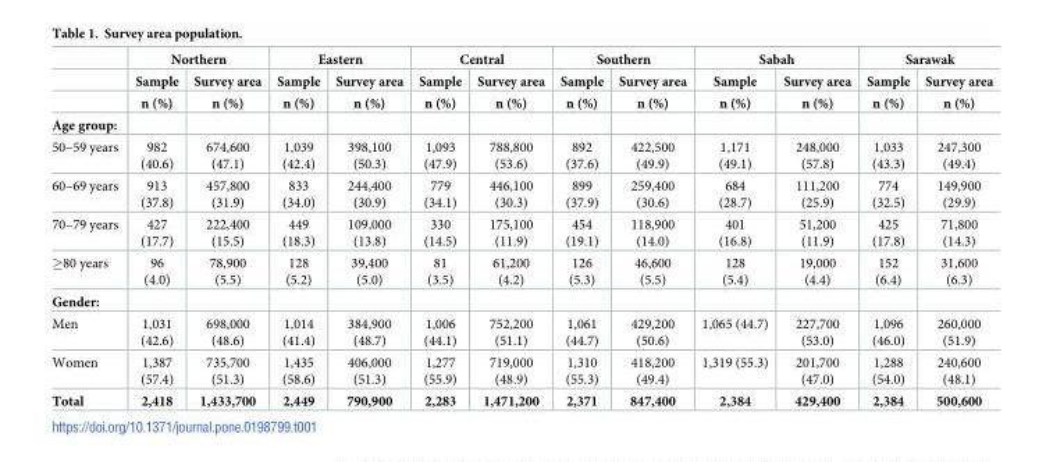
<table><thead><tr><td rowspan="3"></td><td colspan="2">Northern</td><td colspan="2">Eastern</td><td colspan="2">Central</td><td colspan="2">Southern</td><td colspan="2">Sabah</td><td colspan="2">Sarawak</td></tr><tr><td rowspan="2">Sample n (%)</td><td rowspan="2">Survey area n (%)</td><td rowspan="2">Sample n (%)</td><td rowspan="2">Survey area n (%)</td><td rowspan="2">Sample n (%)</td><td rowspan="2">Survey area n (%)</td><td rowspan="2">Sample n (%)</td><td rowspan="2">Survey area n (%)</td><td rowspan="2">Sample n (%)</td><td rowspan="2">Survey area n (%)</td><td rowspan="2">Sample n (%)</td><td rowspan="2">Survey area n (%)</td></tr><tr></tr></thead><tbody><tr><td colspan="13">Age group:</td></tr><tr><td>50–59 years</td><td>982 (40.6)</td><td>674,600 (47.1)</td><td>1,039 (42.4)</td><td>398,100 (50.3)</td><td>1,093 (47.9)</td><td>788,800 (53.6)</td><td>892 (37.6)</td><td>422,500 (49.9)</td><td>1,171 (49.1)</td><td>248,000 (57.8)</td><td>1,033 (43.3)</td><td>247,300 (49.4)</td></tr><tr><td>60–69 years</td><td>913 (37.8)</td><td>457,800 (31.9)</td><td>833 (34.0)</td><td>244,400 (30.9)</td><td>779 (34.1)</td><td>446,100 (30.3)</td><td>899 (37.9)</td><td>259,400 (30.6)</td><td>684 (28.7)</td><td>111,200 (25.9)</td><td>774 (32.5)</td><td>149,900 (29.9)</td></tr><tr><td>70–79 years</td><td>427 (17.7)</td><td>222,400 (15.5)</td><td>449 (18.3)</td><td>109,000 (13.8)</td><td>330 (14.5)</td><td>175,100 (11.9)</td><td>454 (19.1)</td><td>118,900 (14.0)</td><td>401 (16.8)</td><td>51,200 (11.9)</td><td>425 (17.8)</td><td>71,800 (14.3)</td></tr><tr><td>≥80 years</td><td>96 (4.0)</td><td>78,900 (5.5)</td><td>128 (5.2)</td><td>39,400 (5.0)</td><td>81 (3.5)</td><td>61,200 (4.2)</td><td>126 (5.3)</td><td>46,600 (5.5)</td><td>128 (5.4)</td><td>19,000 (4.4)</td><td>152 (6.4)</td><td>31,600 (6.3)</td></tr><tr><td colspan="13">Gender:</td></tr><tr><td>Men</td><td>1,031 (42.6)</td><td>698,000 (48.6)</td><td>1,014 (41.4)</td><td>384,900 (48.7)</td><td>1,006 (44.1)</td><td>752,200 (51.1)</td><td>1,061 (44.7)</td><td>429,200 (50.6)</td><td>1,065 (44.7)</td><td>227,700 (53.0)</td><td>1,096 (46.0)</td><td>260,000 (51.9)</td></tr><tr><td>Women</td><td>1,387 (57.4)</td><td>735,700 (51.3)</td><td>1,435 (58.6)</td><td>406,000 (51.3)</td><td>1,277 (55.9)</td><td>719,000 (48.9)</td><td>1,310 (55.3)</td><td>418,200 (49.4)</td><td>1,319 (55.3)</td><td>201,700 (47.0)</td><td>1,288 (54.0)</td><td>240,600 (48.1)</td></tr><tr><td>Total</td><td>2,418</td><td>1,433,700</td><td>2,449</td><td>790,900</td><td>2,283</td><td>1,471,200</td><td>2,371</td><td>847,400</td><td>2,384</td><td>429,400</td><td>2,384</td><td>500,600</td></tr></tbody></table>